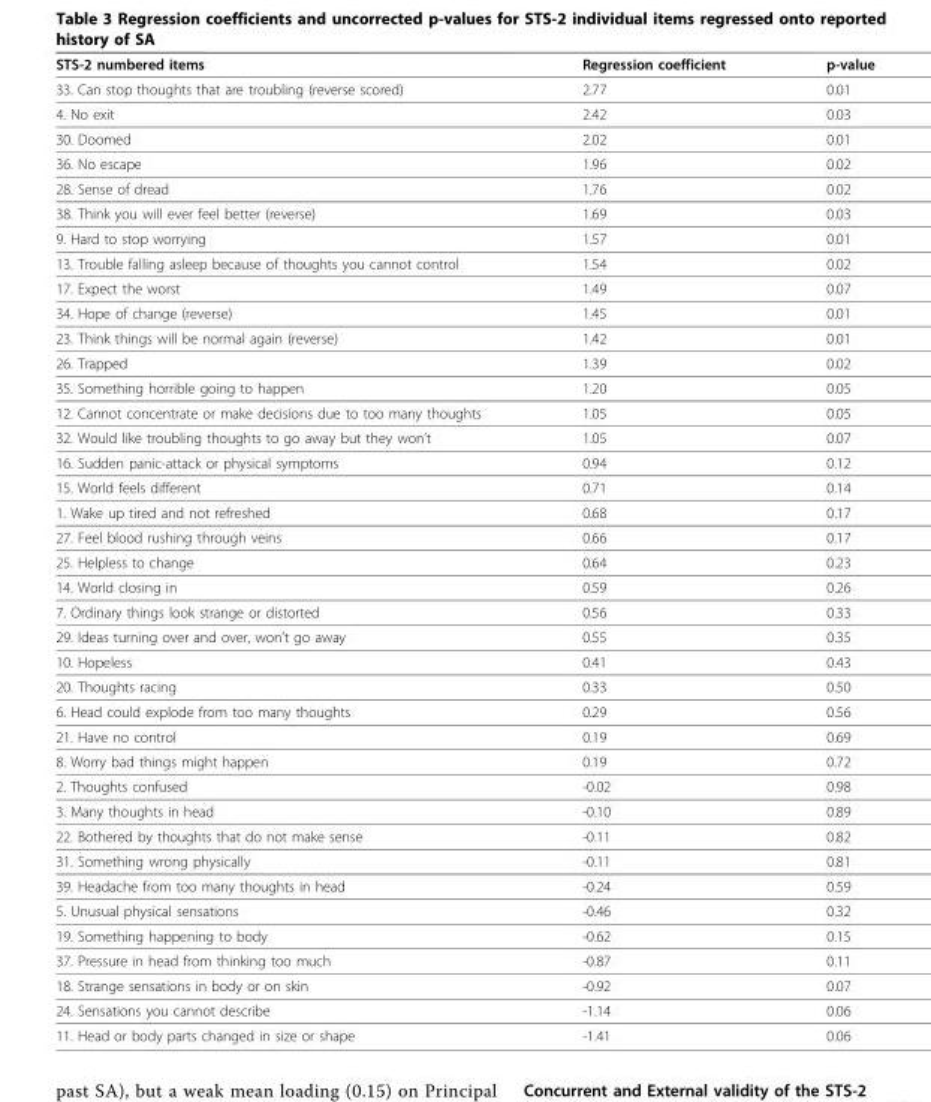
<table><thead><tr><td>STS-2 numbered items</td><td>Regression coefficient</td><td>p-value</td></tr></thead><tbody><tr><td>33. Can stop thoughts that are troubling (reverse scored)</td><td>2.77</td><td>0.01</td></tr><tr><td>4. No exit</td><td>2.42</td><td>0.03</td></tr><tr><td>30. Doomed</td><td>2.02</td><td>0.01</td></tr><tr><td>36. No escape</td><td>1.96</td><td>0.02</td></tr><tr><td>28. Sense of dread</td><td>1.76</td><td>0.02</td></tr><tr><td>38. Think you will ever feel better (reverse)</td><td>1.69</td><td>0.03</td></tr><tr><td>9. Hard to stop worrying</td><td>1.57</td><td>0.01</td></tr><tr><td>13. Trouble falling asleep because of thoughts you cannot control</td><td>1.54</td><td>0.02</td></tr><tr><td>17. Expect the worst</td><td>1.49</td><td>0.07</td></tr><tr><td>34. Hope of change (reverse)</td><td>1.45</td><td>0.01</td></tr><tr><td>23. Think things will be normal again (reverse)</td><td>1.42</td><td>0.01</td></tr><tr><td>26. Trapped</td><td>1.39</td><td>0.02</td></tr><tr><td>35. Something horrible going to happen</td><td>1.20</td><td>0.05</td></tr><tr><td>12. Cannot concentrate or make decisions due to too many thoughts</td><td>1.05</td><td>0.05</td></tr><tr><td>32. Would like troubling thoughts to go away but they won’t</td><td>1.05</td><td>0.07</td></tr><tr><td>16. Sudden panic-attack or physical symptoms</td><td>0.94</td><td>0.12</td></tr><tr><td>15. World feels different</td><td>0.71</td><td>0.14</td></tr><tr><td>1. Wake up tired and not refreshed</td><td>0.68</td><td>0.17</td></tr><tr><td>27. Feel blood rushing through veins</td><td>0.66</td><td>0.17</td></tr><tr><td>25. Helpless to change</td><td>0.64</td><td>0.23</td></tr><tr><td>14. World closing in</td><td>0.59</td><td>0.26</td></tr><tr><td>7. Ordinary things look strange or distorted</td><td>0.56</td><td>0.33</td></tr><tr><td>29. Ideas turning over and over, won’t go away</td><td>0.55</td><td>0.35</td></tr><tr><td>10. Hopeless</td><td>0.41</td><td>0.43</td></tr><tr><td>20. Thoughts racing</td><td>0.33</td><td>0.50</td></tr><tr><td>6. Head could explode from too many thoughts</td><td>0.29</td><td>0.56</td></tr><tr><td>21. Have no control</td><td>0.19</td><td>0.69</td></tr><tr><td>8. Worry bad things might happen</td><td>0.19</td><td>0.72</td></tr><tr><td>2. Thoughts confused</td><td>-0.02</td><td>0.98</td></tr><tr><td>3. Many thoughts in head</td><td>-0.10</td><td>0.89</td></tr><tr><td>22. Bothered by thoughts that do not make sense</td><td>-0.11</td><td>0.82</td></tr><tr><td>31. Something wrong physically</td><td>-0.11</td><td>0.81</td></tr><tr><td>39. Headache from too many thoughts in head</td><td>-0.24</td><td>0.59</td></tr><tr><td>5. Unusual physical sensations</td><td>-0.46</td><td>0.32</td></tr><tr><td>19. Something happening to body</td><td>-0.62</td><td>0.15</td></tr><tr><td>37. Pressure in head from thinking too much</td><td>-0.87</td><td>0.11</td></tr><tr><td>18. Strange sensations in body or on skin</td><td>-0.92</td><td>0.07</td></tr><tr><td>24. Sensations you cannot describe</td><td>-1.14</td><td>0.06</td></tr><tr><td>11. Head or body parts changed in size or shape</td><td>-1.41</td><td>0.06</td></tr></tbody></table>